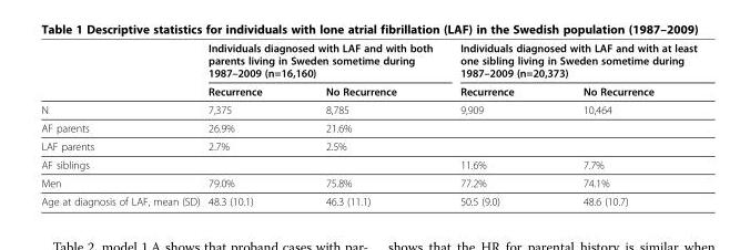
<table><thead><tr><td rowspan="2"></td><td colspan="2">Individuals diagnosed with LAF and with both parents living in Sweden sometime during 1987–2009 (n=16,160)</td><td colspan="2">Individuals diagnosed with LAF and with at least one sibling living in Sweden sometime during 1987–2009 (n=20,373)</td></tr><tr><td>Recurrence</td><td>No Recurrence</td><td>Recurrence</td><td>No Recurrence</td></tr></thead><tbody><tr><td>N</td><td>7,375</td><td>8,785</td><td>9,909</td><td>10,464</td></tr><tr><td>AF parents</td><td>26.9%</td><td>21.6%</td><td></td><td></td></tr><tr><td>LAF parents</td><td>2.7%</td><td>2.5%</td><td></td><td></td></tr><tr><td>AF siblings</td><td></td><td></td><td>11.6%</td><td>7.7%</td></tr><tr><td>Men</td><td>79.0%</td><td>75.8%</td><td>77.2%</td><td>74.1%</td></tr><tr><td>Age at diagnosis of LAF, mean (SD)</td><td>48.3 (10.1)</td><td>46.3 (11.1)</td><td>50.5 (9.0)</td><td>48.6 (10.7)</td></tr></tbody></table>